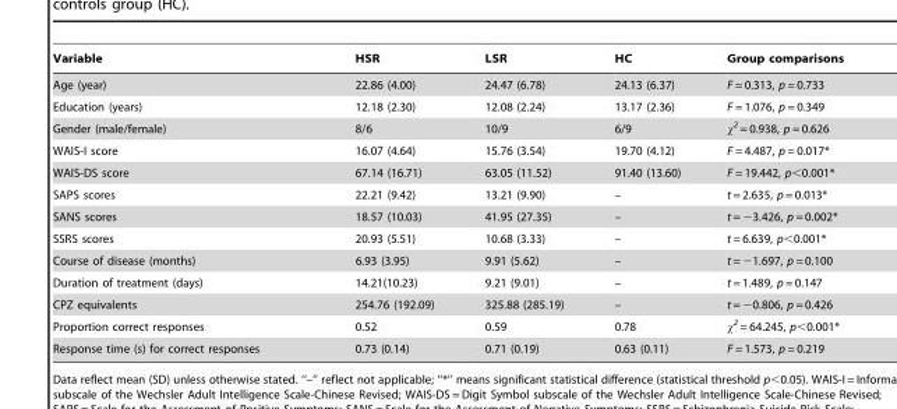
<table><thead><tr><td>Variable</td><td>HSR</td><td>LSR</td><td>HC</td><td>Group comparisons</td></tr></thead><tbody><tr><td>Age (year)</td><td>22.86 (4.00)</td><td>24.47 (6.78)</td><td>24.13 (6.37)</td><td>F = 0.313, p = 0.733</td></tr><tr><td>Education (years)</td><td>12.18 (2.30)</td><td>12.08 (2.24)</td><td>13.17 (2.36)</td><td>F = 1.076, p = 0.349</td></tr><tr><td>Gender (male/female)</td><td>8/6</td><td>10/9</td><td>6/9</td><td>χ<sup>2</sup> = 0.938, p = 0.626</td></tr><tr><td>WAIS-I score</td><td>16.07 (4.64)</td><td>15.76 (3.54)</td><td>19.70 (4.12)</td><td>F = 4.487, p = 0.017*</td></tr><tr><td>WAIS-DS score</td><td>67.14 (16.71)</td><td>63.05 (11.52)</td><td>91.40 (13.60)</td><td>F = 19.442, p&lt;0.001*</td></tr><tr><td>SAPS scores</td><td>22.21 (9.42)</td><td>13.21 (9.90)</td><td>–</td><td>t = 2.635, p = 0.013*</td></tr><tr><td>SANS scores</td><td>18.57 (10.03)</td><td>41.95 (27.35)</td><td>–</td><td>t = −3.426, p = 0.002*</td></tr><tr><td>SSRS scores</td><td>20.93 (5.51)</td><td>10.68 (3.33)</td><td>–</td><td>t = 6.639, p&lt;0.001*</td></tr><tr><td>Course of disease (months)</td><td>6.93 (3.95)</td><td>9.91 (5.62)</td><td>–</td><td>t = −1.697, p = 0.100</td></tr><tr><td>Duration of treatment (days)</td><td>14.21(10.23)</td><td>9.21 (9.01)</td><td>–</td><td>t = 1.489, p = 0.147</td></tr><tr><td>CPZ equivalents</td><td>254.76 (192.09)</td><td>325.88 (285.19)</td><td>–</td><td>t = −0.806, p = 0.426</td></tr><tr><td>Proportion correct responses</td><td>0.52</td><td>0.59</td><td>0.78</td><td>χ<sup>2</sup> = 64.245, p&lt;0.001*</td></tr><tr><td>Response time (s) for correct responses</td><td>0.73 (0.14)</td><td>0.71 (0.19)</td><td>0.63 (0.11)</td><td>F = 1.573, p = 0.219</td></tr></tbody></table>